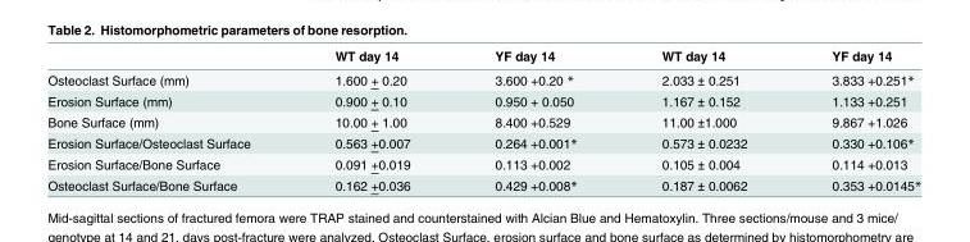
<table><thead><tr><td></td><td>WT day 14</td><td>YF day 14</td><td>WT day 14</td><td>YF day 14</td></tr></thead><tbody><tr><td>Osteoclast Surface (mm)</td><td>1.600 + 0.20</td><td>3.600 +0.20 *</td><td>2.033 ± 0.251</td><td>3.833 +0.251*</td></tr><tr><td>Erosion Surface (mm)</td><td>0.900 + 0.10</td><td>0.950 + 0.050</td><td>1.167 ± 0.152</td><td>1.133 +0.251</td></tr><tr><td>Bone Surface (mm)</td><td>10.00 + 1.00</td><td>8.400 +0.529</td><td>11.00 ±1.000</td><td>9.867 +1.026</td></tr><tr><td>Erosion Surface/Osteoclast Surface</td><td>0.563 +0.007</td><td>0.264 +0.001*</td><td>0.573 ± 0.0232</td><td>0.330 +0.106*</td></tr><tr><td>Erosion Surface/Bone Surface</td><td>0.091 +0.019</td><td>0.113 +0.002</td><td>0.105 ± 0.004</td><td>0.114 +0.013</td></tr><tr><td>Osteoclast Surface/Bone Surface</td><td>0.162 +0.036</td><td>0.429 +0.008*</td><td>0.187 ± 0.0062</td><td>0.353 +0.0145*</td></tr></tbody></table>